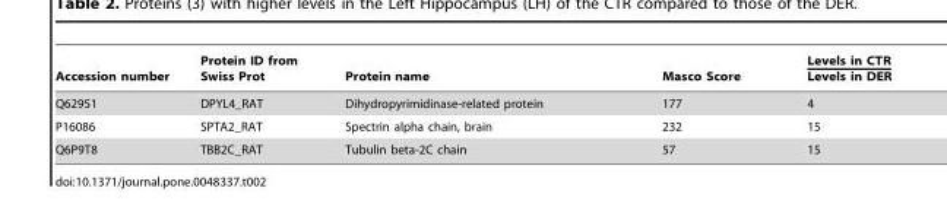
<table><thead><tr><td>Accession number</td><td>Protein ID from Swiss Prot</td><td>Protein name</td><td>Masco Score</td><td>Levels in CTR Levels in DER</td></tr></thead><tbody><tr><td>Q62951</td><td>DPYL4_RAT</td><td>Dihydropyrimidinase-related protein</td><td>177</td><td>4</td></tr><tr><td>P16086</td><td>SPTA2_RAT</td><td>Spectrin alpha chain, brain</td><td>232</td><td>15</td></tr><tr><td>Q6P9T8</td><td>TBB2C_RAT</td><td>Tubulin beta-2C chain</td><td>57</td><td>15</td></tr></tbody></table>